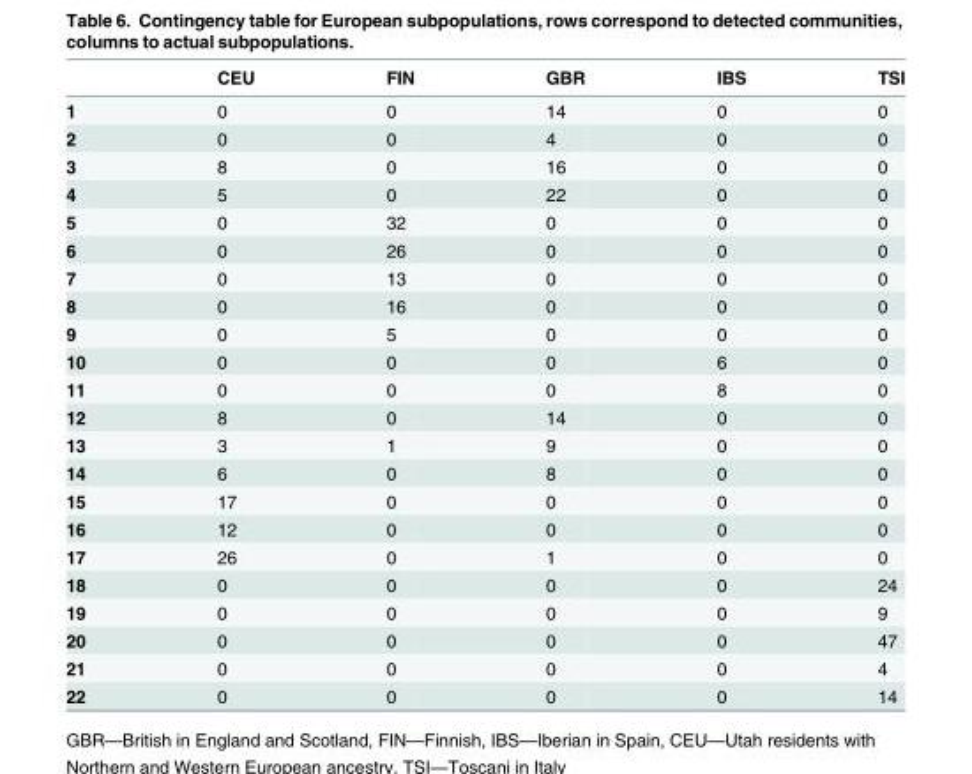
<table><thead><tr><td></td><td>CEU</td><td>FIN</td><td>GBR</td><td>IBS</td><td>TSI</td></tr></thead><tbody><tr><td>1</td><td>0</td><td>0</td><td>14</td><td>0</td><td>0</td></tr><tr><td>2</td><td>0</td><td>0</td><td>4</td><td>0</td><td>0</td></tr><tr><td>3</td><td>8</td><td>0</td><td>16</td><td>0</td><td>0</td></tr><tr><td>4</td><td>5</td><td>0</td><td>22</td><td>0</td><td>0</td></tr><tr><td>5</td><td>0</td><td>32</td><td>0</td><td>0</td><td>0</td></tr><tr><td>6</td><td>0</td><td>26</td><td>0</td><td>0</td><td>0</td></tr><tr><td>7</td><td>0</td><td>13</td><td>0</td><td>0</td><td>0</td></tr><tr><td>8</td><td>0</td><td>16</td><td>0</td><td>0</td><td>0</td></tr><tr><td>9</td><td>0</td><td>5</td><td>0</td><td>0</td><td>0</td></tr><tr><td>10</td><td>0</td><td>0</td><td>0</td><td>6</td><td>0</td></tr><tr><td>11</td><td>0</td><td>0</td><td>0</td><td>8</td><td>0</td></tr><tr><td>12</td><td>8</td><td>0</td><td>14</td><td>0</td><td>0</td></tr><tr><td>13</td><td>3</td><td>1</td><td>9</td><td>0</td><td>0</td></tr><tr><td>14</td><td>6</td><td>0</td><td>8</td><td>0</td><td>0</td></tr><tr><td>15</td><td>17</td><td>0</td><td>0</td><td>0</td><td>0</td></tr><tr><td>16</td><td>12</td><td>0</td><td>0</td><td>0</td><td>0</td></tr><tr><td>17</td><td>26</td><td>0</td><td>1</td><td>0</td><td>0</td></tr><tr><td>18</td><td>0</td><td>0</td><td>0</td><td>0</td><td>24</td></tr><tr><td>19</td><td>0</td><td>0</td><td>0</td><td>0</td><td>9</td></tr><tr><td>20</td><td>0</td><td>0</td><td>0</td><td>0</td><td>47</td></tr><tr><td>21</td><td>0</td><td>0</td><td>0</td><td>0</td><td>4</td></tr><tr><td>22</td><td>0</td><td>0</td><td>0</td><td>0</td><td>14</td></tr></tbody></table>